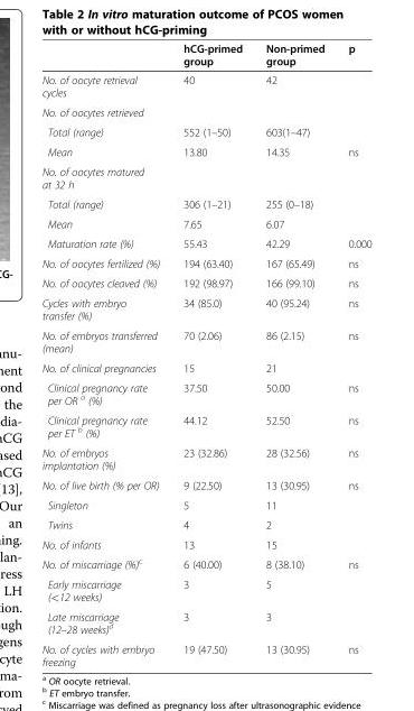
<table><thead><tr><td></td><td>hCG-primed group</td><td>Non-primed group</td><td>p</td></tr></thead><tbody><tr><td>No. of oocyte retrieval cycles</td><td>40</td><td>42</td><td></td></tr><tr><td colspan="4">No. of oocytes retrieved</td></tr><tr><td>Total (range)</td><td>552 (1–50)</td><td>603(1–47)</td><td></td></tr><tr><td>Mean</td><td>13.80</td><td>14.35</td><td>ns</td></tr><tr><td colspan="4">No. of oocytes matured at 32 h</td></tr><tr><td>Total (range)</td><td>306 (1–21)</td><td>255 (0–18)</td><td></td></tr><tr><td>Mean</td><td>7.65</td><td>6.07</td><td></td></tr><tr><td>Maturation rate (%)</td><td>55.43</td><td>42.29</td><td>0.000</td></tr><tr><td>No. of oocytes fertilized (%)</td><td>194 (63.40)</td><td>167 (65.49)</td><td>ns</td></tr><tr><td>No. of oocytes cleaved (%)</td><td>192 (98.97)</td><td>166 (99.10)</td><td>ns</td></tr><tr><td>Cycles with embryo transfer (%)</td><td>34 (85.0)</td><td>40 (95.24)</td><td>ns</td></tr><tr><td>No. of embryos transferred (mean)</td><td>70 (2.06)</td><td>86 (2.15)</td><td>ns</td></tr><tr><td>No. of clinical pregnancies</td><td>15</td><td>21</td><td></td></tr><tr><td>Clinical pregnancy rate per OR <sup>a</sup> (%)</td><td>37.50</td><td>50.00</td><td>ns</td></tr><tr><td>Clinical pregnancy rate per ET <sup>b</sup> (%)</td><td>44.12</td><td>52.50</td><td>ns</td></tr><tr><td>No. of embryos implantation (%)</td><td>23 (32.86)</td><td>28 (32.56)</td><td>ns</td></tr><tr><td>No. of live birth (% per OR)</td><td>9 (22.50)</td><td>13 (30.95)</td><td>ns</td></tr><tr><td>Singleton</td><td>5</td><td>11</td><td></td></tr><tr><td>Twins</td><td>4</td><td>2</td><td></td></tr><tr><td>No. of infants</td><td>13</td><td>15</td><td></td></tr><tr><td>No. of miscarriage (%)<sup>c</sup></td><td>6 (40.00)</td><td>8 (38.10)</td><td>ns</td></tr><tr><td>Early miscarriage (&lt;12 weeks)</td><td>3</td><td>5</td><td></td></tr><tr><td>Late miscarriage (12–28 weeks)<sup>d</sup></td><td>3</td><td>3</td><td></td></tr><tr><td>No. of cycles with embryo freezing</td><td>19 (47.50)</td><td>13 (30.95)</td><td>ns</td></tr></tbody></table>